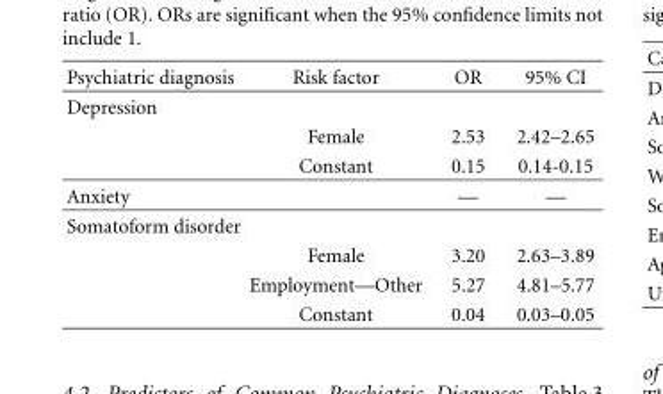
<table><thead><tr><td>Psychiatric diagnosis</td><td>Risk factor</td><td>OR</td><td>95% CI</td></tr></thead><tbody><tr><td colspan="4">Depression</td></tr><tr><td></td><td>Female</td><td>2.53</td><td>2.42–2.65</td></tr><tr><td></td><td>Constant</td><td>0.15</td><td>0.14-0.15</td></tr><tr><td>Anxiety</td><td></td><td>—</td><td>—</td></tr><tr><td colspan="4">Somatoform disorder</td></tr><tr><td></td><td>Female</td><td>3.20</td><td>2.63–3.89</td></tr><tr><td></td><td>Employment—Other</td><td>5.27</td><td>4.81–5.77</td></tr><tr><td></td><td>Constant</td><td>0.04</td><td>0.03–0.05</td></tr></tbody></table>